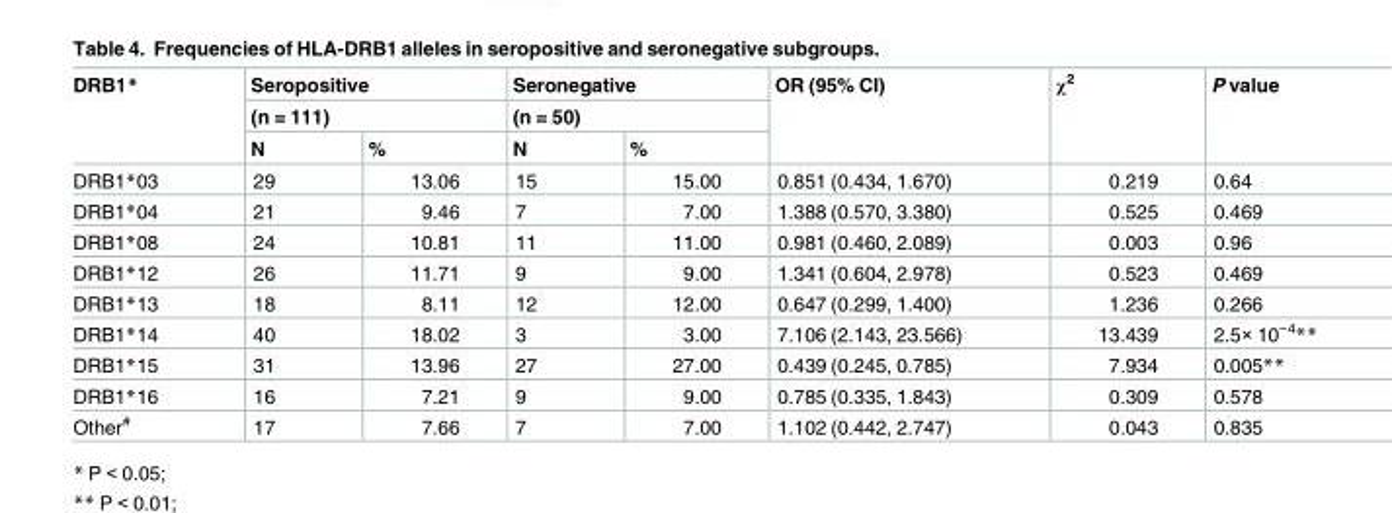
<table><thead><tr><td rowspan="3">DRB1*</td><td rowspan="2" colspan="2">Seropositive (n = 111)</td><td rowspan="2" colspan="2">Seronegative (n = 50)</td><td rowspan="3">OR (95% CI)</td><td rowspan="3">χ<sup>2</sup></td><td rowspan="3">P value</td></tr><tr></tr><tr><td>N</td><td>%</td><td>N</td><td>%</td></tr></thead><tbody><tr><td>DRB1*03</td><td>29</td><td>13.06</td><td>15</td><td>15.00</td><td>0.851 (0.434, 1.670)</td><td>0.219</td><td>0.64</td></tr><tr><td>DRB1*04</td><td>21</td><td>9.46</td><td>7</td><td>7.00</td><td>1.388 (0.570, 3.380)</td><td>0.525</td><td>0.469</td></tr><tr><td>DRB1*08</td><td>24</td><td>10.81</td><td>11</td><td>11.00</td><td>0.981 (0.460, 2.089)</td><td>0.003</td><td>0.96</td></tr><tr><td>DRB1*12</td><td>26</td><td>11.71</td><td>9</td><td>9.00</td><td>1.341 (0.604, 2.978)</td><td>0.523</td><td>0.469</td></tr><tr><td>DRB1*13</td><td>18</td><td>8.11</td><td>12</td><td>12.00</td><td>0.647 (0.299, 1.400)</td><td>1.236</td><td>0.266</td></tr><tr><td>DRB1*14</td><td>40</td><td>18.02</td><td>3</td><td>3.00</td><td>7.106 (2.143, 23.566)</td><td>13.439</td><td>2.5× 10<sup>−4</sup>**</td></tr><tr><td>DRB1*15</td><td>31</td><td>13.96</td><td>27</td><td>27.00</td><td>0.439 (0.245, 0.785)</td><td>7.934</td><td>0.005**</td></tr><tr><td>DRB1*16</td><td>16</td><td>7.21</td><td>9</td><td>9.00</td><td>0.785 (0.335, 1.843)</td><td>0.309</td><td>0.578</td></tr><tr><td>Other<sup>#</sup></td><td>17</td><td>7.66</td><td>7</td><td>7.00</td><td>1.102 (0.442, 2.747)</td><td>0.043</td><td>0.835</td></tr></tbody></table>